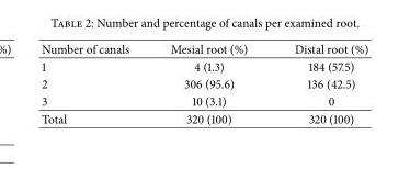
<table><thead><tr><td>Number of canals</td><td>Mesial root (%)</td><td>Distal root (%)</td></tr></thead><tbody><tr><td>1</td><td>4 (1.3)</td><td>184 (57.5)</td></tr><tr><td>2</td><td>306 (95.6)</td><td>136 (42.5)</td></tr><tr><td>3</td><td>10 (3.1)</td><td>0</td></tr><tr><td>Total</td><td>320 (100)</td><td>320 (100)</td></tr></tbody></table>